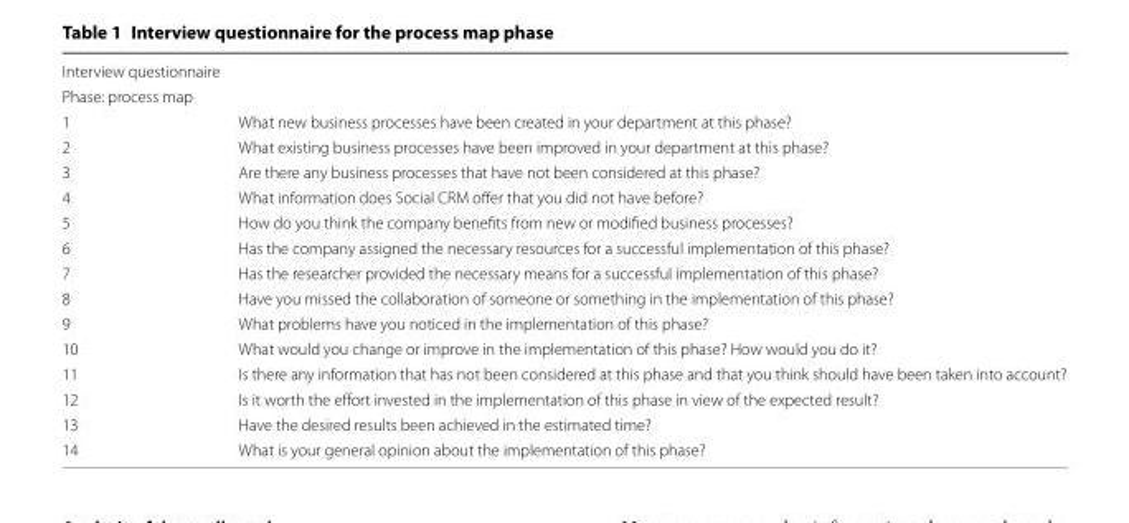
<table><tbody><tr><td colspan="2">Interview questionnaire</td></tr><tr><td colspan="2">Phase: process map</td></tr><tr><td>1</td><td>What new business processes have been created in your department at this phase?</td></tr><tr><td>2</td><td>What existing business processes have been improved in your department at this phase?</td></tr><tr><td>3</td><td>Are there any business processes that have not been considered at this phase?</td></tr><tr><td>4</td><td>What information does Social CRM offer that you did not have before?</td></tr><tr><td>5</td><td>How do you think the company benefits from new or modified business processes?</td></tr><tr><td>6</td><td>Has the company assigned the necessary resources for a successful implementation of this phase?</td></tr><tr><td>7</td><td>Has the researcher provided the necessary means for a successful implementation of this phase?</td></tr><tr><td>8</td><td>Have you missed the collaboration of someone or something in the implementation of this phase?</td></tr><tr><td>9</td><td>What problems have you noticed in the implementation of this phase?</td></tr><tr><td>10</td><td>What would you change or improve in the implementation of this phase? How would you do it?</td></tr><tr><td>11</td><td>Is there any information that has not been considered at this phase and that you think should have been taken into account?</td></tr><tr><td>12</td><td>Is it worth the effort invested in the implementation of this phase in view of the expected result?</td></tr><tr><td>13</td><td>Have the desired results been achieved in the estimated time?</td></tr><tr><td>14</td><td>What is your general opinion about the implementation of this phase?</td></tr></tbody></table>